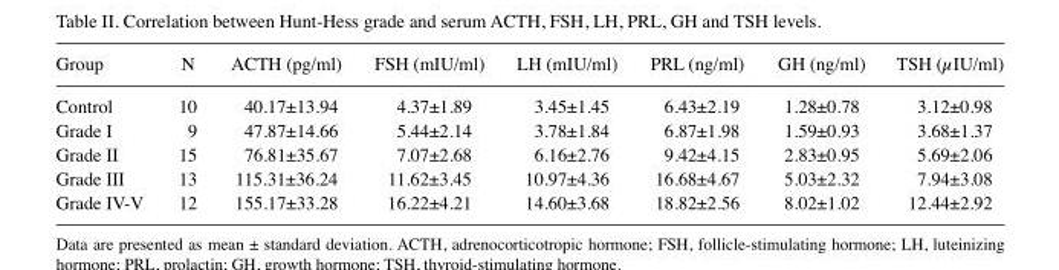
<table><thead><tr><td>Group</td><td>N</td><td>ACTH (pg/ml)</td><td>FSH (mIU/ml)</td><td>LH (mIU/ml)</td><td>PRL (ng/ml)</td><td>GH (ng/ml)</td><td>TSH (µIU/ml)</td></tr></thead><tbody><tr><td>Control</td><td>10</td><td>40.17±13.94</td><td>4.37±1.89</td><td>3.45±1.45</td><td>6.43±2.19</td><td>1.28±0.78</td><td>3.12±0.98</td></tr><tr><td>Grade I</td><td>9</td><td>47.87±14.66</td><td>5.44±2.14</td><td>3.78±1.84</td><td>6.87±1.98</td><td>1.59±0.93</td><td>3.68±1.37</td></tr><tr><td>Grade II</td><td>15</td><td>76.81±35.67</td><td>7.07±2.68</td><td>6.16±2.76</td><td>9.42±4.15</td><td>2.83±0.95</td><td>5.69±2.06</td></tr><tr><td>Grade III</td><td>13</td><td>115.31±36.24</td><td>11.62±3.45</td><td>10.97±4.36</td><td>16.68±4.67</td><td>5.03±2.32</td><td>7.94±3.08</td></tr><tr><td>Grade IV-V</td><td>12</td><td>155.17±33.28</td><td>16.22±4.21</td><td>14.60±3.68</td><td>18.82±2.56</td><td>8.02±1.02</td><td>12.44±2.92</td></tr></tbody></table>